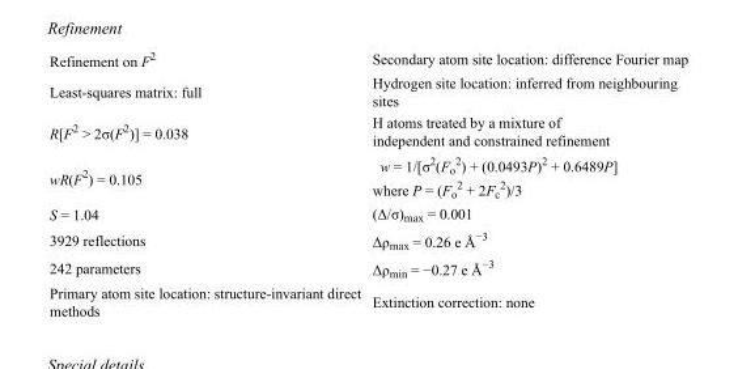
<table><tbody><tr><td>Refinement on F<sup>2</sup></td><td>Secondary atom site location: difference Fourier map</td></tr><tr><td>Least-squares matrix: full</td><td>Hydrogen site location: inferred from neighbouring sites</td></tr><tr><td>R[F<sup>2</sup> &gt; 2σ(F<sup>2</sup>)] = 0.038</td><td>H atoms treated by a mixture of independent and constrained refinement</td></tr><tr><td>wR(F<sup>2</sup>) = 0.105</td><td>w = 1/[σ<sup>2</sup>(F<sub>o</sub> <sup>2</sup>) + (0.0493P)<sup>2</sup> + 0.6489P] where P = (F<sub>o</sub> <sup>2</sup> + 2F<sub>c</sub> <sup>2</sup>)/3</td></tr><tr><td>S = 1.04</td><td>(Δ/σ)<sub>max</sub> = 0.001</td></tr><tr><td>3929 reflections</td><td>Δρ<sub>max</sub> = 0.26 e Å<sup>−3</sup></td></tr><tr><td>242 parameters</td><td>Δρ<sub>min</sub> = −0.27 e Å<sup>−3</sup></td></tr><tr><td>Primary atom site location: structure-invariant direct methods</td><td>Extinction correction: none</td></tr></tbody></table>